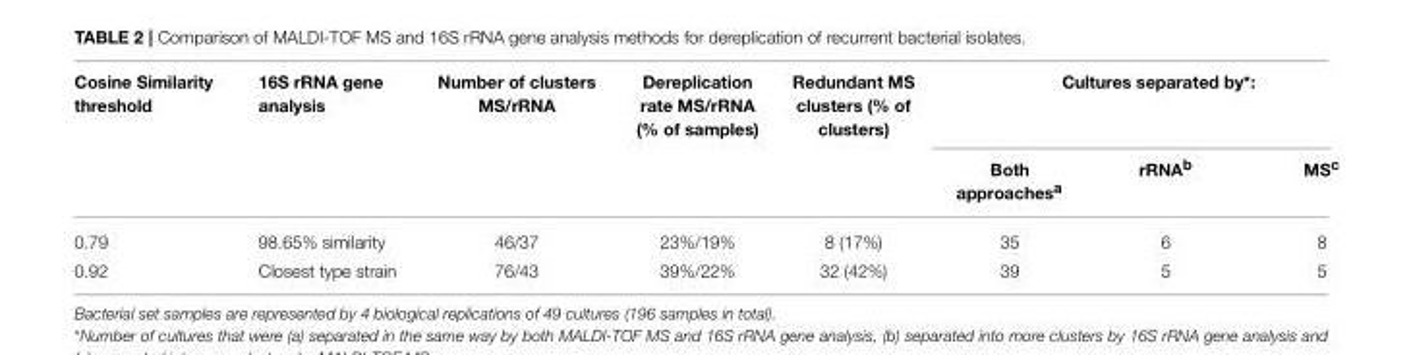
<table><thead><tr><td rowspan="2">Cosine Similarity threshold</td><td rowspan="2">16S rRNA gene analysis</td><td rowspan="2">Number of clusters MS/rRNA</td><td rowspan="2">Dereplication rate MS/rRNA (% of samples)</td><td rowspan="2">Redundant MS clusters (% of clusters)</td><td colspan="3">Cultures separated by*:</td></tr><tr><td>Both approaches<sup>a</sup></td><td>rRNA<sup>b</sup></td><td>MS<sup>c</sup></td></tr></thead><tbody><tr><td>0.79</td><td>98.65% similarity</td><td>46/37</td><td>23%/19%</td><td>8 (17%)</td><td>35</td><td>6</td><td>8</td></tr><tr><td>0.92</td><td>Closest type strain</td><td>76/43</td><td>39%/22%</td><td>32 (42%)</td><td>39</td><td>5</td><td>5</td></tr></tbody></table>